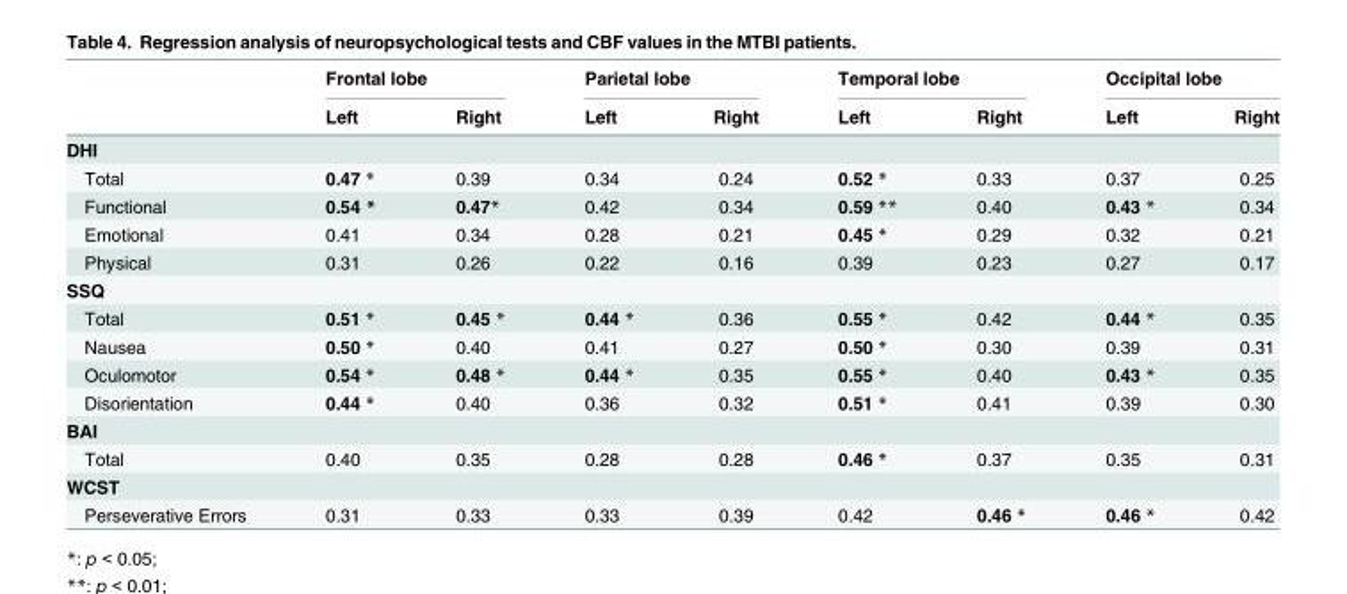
<table><thead><tr><td rowspan="2"></td><td colspan="2">Frontal lobe</td><td colspan="2">Parietal lobe</td><td colspan="2">Temporal lobe</td><td colspan="2">Occipital lobe</td></tr><tr><td>Left</td><td>Right</td><td>Left</td><td>Right</td><td>Left</td><td>Right</td><td>Left</td><td>Right</td></tr></thead><tbody><tr><td colspan="9">DHI</td></tr><tr><td>Total</td><td>0.47 *</td><td>0.39</td><td>0.34</td><td>0.24</td><td>0.52 *</td><td>0.33</td><td>0.37</td><td>0.25</td></tr><tr><td>Functional</td><td>0.54 *</td><td>0.47*</td><td>0.42</td><td>0.34</td><td>0.59 **</td><td>0.40</td><td>0.43 *</td><td>0.34</td></tr><tr><td>Emotional</td><td>0.41</td><td>0.34</td><td>0.28</td><td>0.21</td><td>0.45 *</td><td>0.29</td><td>0.32</td><td>0.21</td></tr><tr><td>Physical</td><td>0.31</td><td>0.26</td><td>0.22</td><td>0.16</td><td>0.39</td><td>0.23</td><td>0.27</td><td>0.17</td></tr><tr><td colspan="9">SSQ</td></tr><tr><td>Total</td><td>0.51 *</td><td>0.45 *</td><td>0.44 *</td><td>0.36</td><td>0.55 *</td><td>0.42</td><td>0.44 *</td><td>0.35</td></tr><tr><td>Nausea</td><td>0.50 *</td><td>0.40</td><td>0.41</td><td>0.27</td><td>0.50 *</td><td>0.30</td><td>0.39</td><td>0.31</td></tr><tr><td>Oculomotor</td><td>0.54 *</td><td>0.48 *</td><td>0.44 *</td><td>0.35</td><td>0.55 *</td><td>0.40</td><td>0.43 *</td><td>0.35</td></tr><tr><td>Disorientation</td><td>0.44 *</td><td>0.40</td><td>0.36</td><td>0.32</td><td>0.51 *</td><td>0.41</td><td>0.39</td><td>0.30</td></tr><tr><td colspan="9">BAI</td></tr><tr><td>Total</td><td>0.40</td><td>0.35</td><td>0.28</td><td>0.28</td><td>0.46 *</td><td>0.37</td><td>0.35</td><td>0.31</td></tr><tr><td colspan="9">WCST</td></tr><tr><td>Perseverative Errors</td><td>0.31</td><td>0.33</td><td>0.33</td><td>0.39</td><td>0.42</td><td>0.46 *</td><td>0.46 *</td><td>0.42</td></tr></tbody></table>